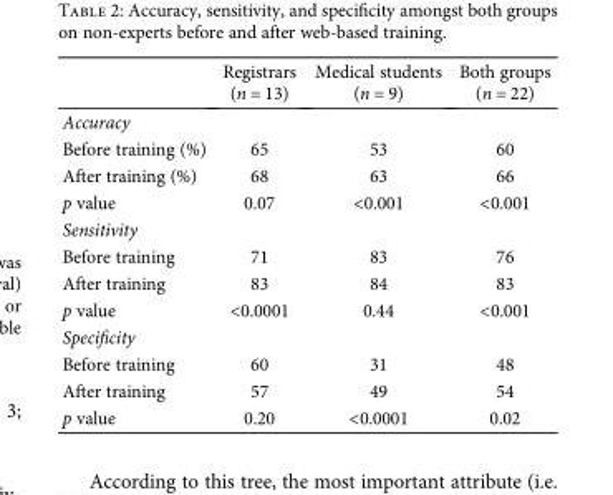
<table><thead><tr><td></td><td>Registrars (n = 13)</td><td>Medical students (n = 9)</td><td>Both groups (n = 22)</td></tr></thead><tbody><tr><td colspan="4">Accuracy</td></tr><tr><td>Before training (%)</td><td>65</td><td>53</td><td>60</td></tr><tr><td>After training (%)</td><td>68</td><td>63</td><td>66</td></tr><tr><td>p value</td><td>0.07</td><td>&lt;0.001</td><td>&lt;0.001</td></tr><tr><td colspan="4">Sensitivity</td></tr><tr><td>Before training</td><td>71</td><td>83</td><td>76</td></tr><tr><td>After training</td><td>83</td><td>84</td><td>83</td></tr><tr><td>p value</td><td>&lt;0.0001</td><td>0.44</td><td>&lt;0.001</td></tr><tr><td colspan="4">Specificity</td></tr><tr><td>Before training</td><td>60</td><td>31</td><td>48</td></tr><tr><td>After training</td><td>57</td><td>49</td><td>54</td></tr><tr><td>p value</td><td>0.20</td><td>&lt;0.0001</td><td>0.02</td></tr></tbody></table>